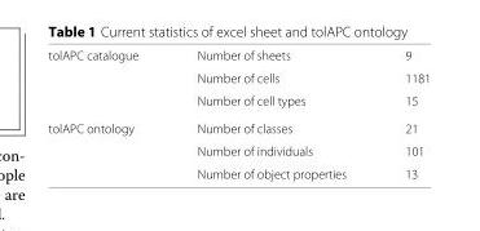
<table><tbody><tr><td rowspan="3">tolAPC catalogue</td><td>Number of sheets</td><td>9</td></tr><tr><td>Number of cells</td><td>1181</td></tr><tr><td>Number of cell types</td><td>15</td></tr><tr><td rowspan="3">tolAPC ontology</td><td>Number of classes</td><td>21</td></tr><tr><td>Number of individuals</td><td>101</td></tr><tr><td>Number of object properties</td><td>13</td></tr></tbody></table>